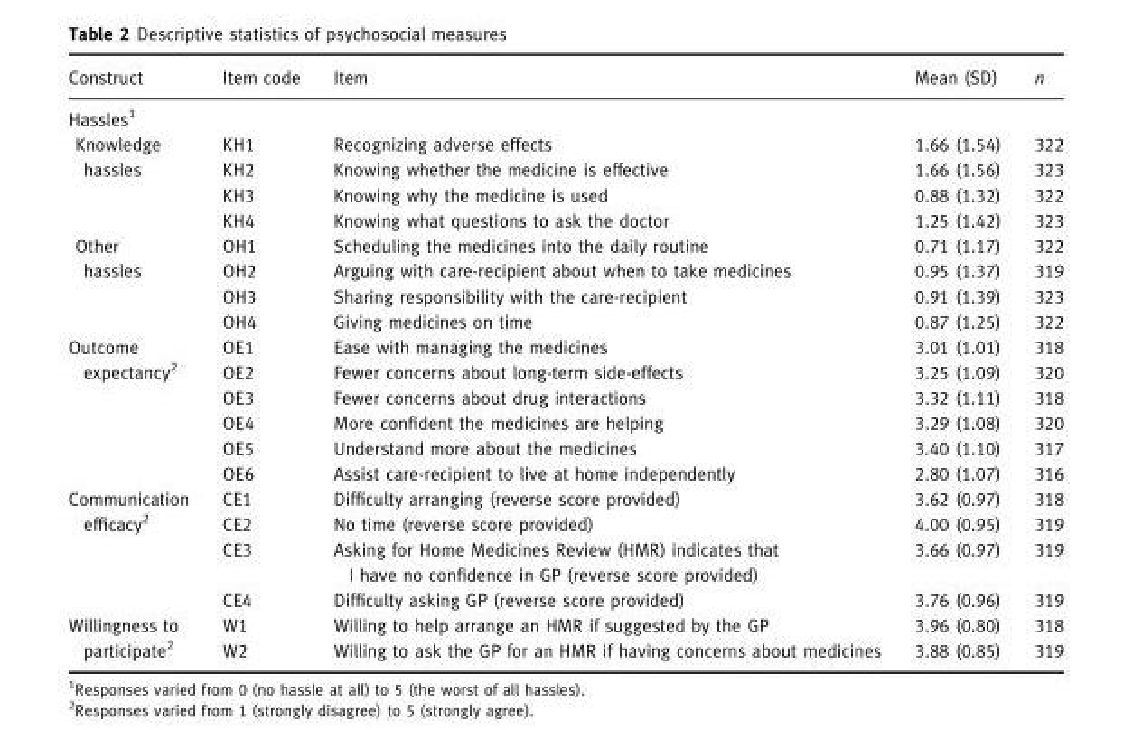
<table><thead><tr><td>Construct</td><td>Item code</td><td>Item</td><td>Mean (SD)</td><td>n</td></tr></thead><tbody><tr><td colspan="5">Hassles1</td></tr><tr><td rowspan="4">Knowledge hassles</td><td>KH1</td><td>Recognizing adverse effects</td><td>1.66 (1.54)</td><td>322</td></tr><tr><td>KH2</td><td>Knowing whether the medicine is effective</td><td>1.66 (1.56)</td><td>323</td></tr><tr><td>KH3</td><td>Knowing why the medicine is used</td><td>0.88 (1.32)</td><td>322</td></tr><tr><td>KH4</td><td>Knowing what questions to ask the doctor</td><td>1.25 (1.42)</td><td>323</td></tr><tr><td rowspan="4">Other hassles</td><td>OH1</td><td>Scheduling the medicines into the daily routine</td><td>0.71 (1.17)</td><td>322</td></tr><tr><td>OH2</td><td>Arguing with care-recipient about when to take medicines</td><td>0.95 (1.37)</td><td>319</td></tr><tr><td>OH3</td><td>Sharing responsibility with the care-recipient</td><td>0.91 (1.39)</td><td>323</td></tr><tr><td>OH4</td><td>Giving medicines on time</td><td>0.87 (1.25)</td><td>322</td></tr><tr><td rowspan="6">Outcome expectancy2</td><td>OE1</td><td>Ease with managing the medicines</td><td>3.01 (1.01)</td><td>318</td></tr><tr><td>OE2</td><td>Fewer concerns about long-term side-effects</td><td>3.25 (1.09)</td><td>320</td></tr><tr><td>OE3</td><td>Fewer concerns about drug interactions</td><td>3.32 (1.11)</td><td>318</td></tr><tr><td>OE4</td><td>More confident the medicines are helping</td><td>3.29 (1.08)</td><td>320</td></tr><tr><td>OE5</td><td>Understand more about the medicines</td><td>3.40 (1.10)</td><td>317</td></tr><tr><td>OE6</td><td>Assist care-recipient to live at home independently</td><td>2.80 (1.07)</td><td>316</td></tr><tr><td rowspan="4">Communication efficacy2</td><td>CE1</td><td>Difficulty arranging (reverse score provided)</td><td>3.62 (0.97)</td><td>318</td></tr><tr><td>CE2</td><td>No time (reverse score provided)</td><td>4.00 (0.95)</td><td>319</td></tr><tr><td>CE3</td><td>Asking for Home Medicines Review (HMR) indicates that I have no confidence in GP (reverse score provided)</td><td>3.66 (0.97)</td><td>319</td></tr><tr><td>CE4</td><td>Difficulty asking GP (reverse score provided)</td><td>3.76 (0.96)</td><td>319</td></tr><tr><td rowspan="2">Willingness to participate2</td><td>W1</td><td>Willing to help arrange an HMR if suggested by the GP</td><td>3.96 (0.80)</td><td>318</td></tr><tr><td>W2</td><td>Willing to ask the GP for an HMR if having concerns about medicines</td><td>3.88 (0.85)</td><td>319</td></tr></tbody></table>